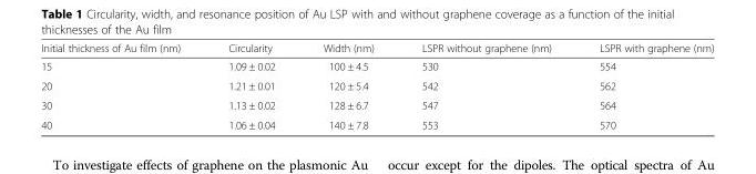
<table><thead><tr><td>Initial thickness of Au film (nm)</td><td>Circularity</td><td>Width (nm)</td><td>LSPR without graphene (nm)</td><td>LSPR with graphene (nm)</td></tr></thead><tbody><tr><td>15</td><td>1.09 ± 0.02</td><td>100 ± 4.5</td><td>530</td><td>554</td></tr><tr><td>20</td><td>1.21 ± 0.01</td><td>120 ± 5.4</td><td>542</td><td>562</td></tr><tr><td>30</td><td>1.13 ± 0.02</td><td>128 ± 6.7</td><td>547</td><td>564</td></tr><tr><td>40</td><td>1.06 ± 0.04</td><td>140 ± 7.8</td><td>553</td><td>570</td></tr></tbody></table>